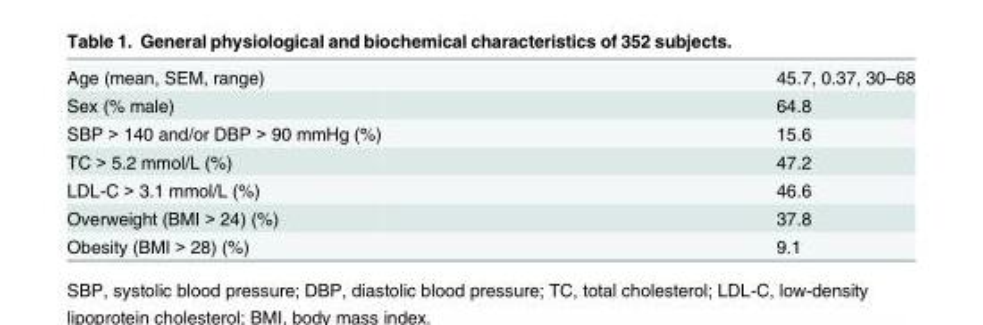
<table><tbody><tr><td>Age (mean, SEM, range)</td><td>45.7, 0.37, 30–68</td></tr><tr><td>Sex (% male)</td><td>64.8</td></tr><tr><td>SBP &gt; 140 and/or DBP &gt; 90 mmHg (%)</td><td>15.6</td></tr><tr><td>TC &gt; 5.2 mmol/L (%)</td><td>47.2</td></tr><tr><td>LDL-C &gt; 3.1 mmol/L (%)</td><td>46.6</td></tr><tr><td>Overweight (BMI &gt; 24) (%)</td><td>37.8</td></tr><tr><td>Obesity (BMI &gt; 28) (%)</td><td>9.1</td></tr></tbody></table>